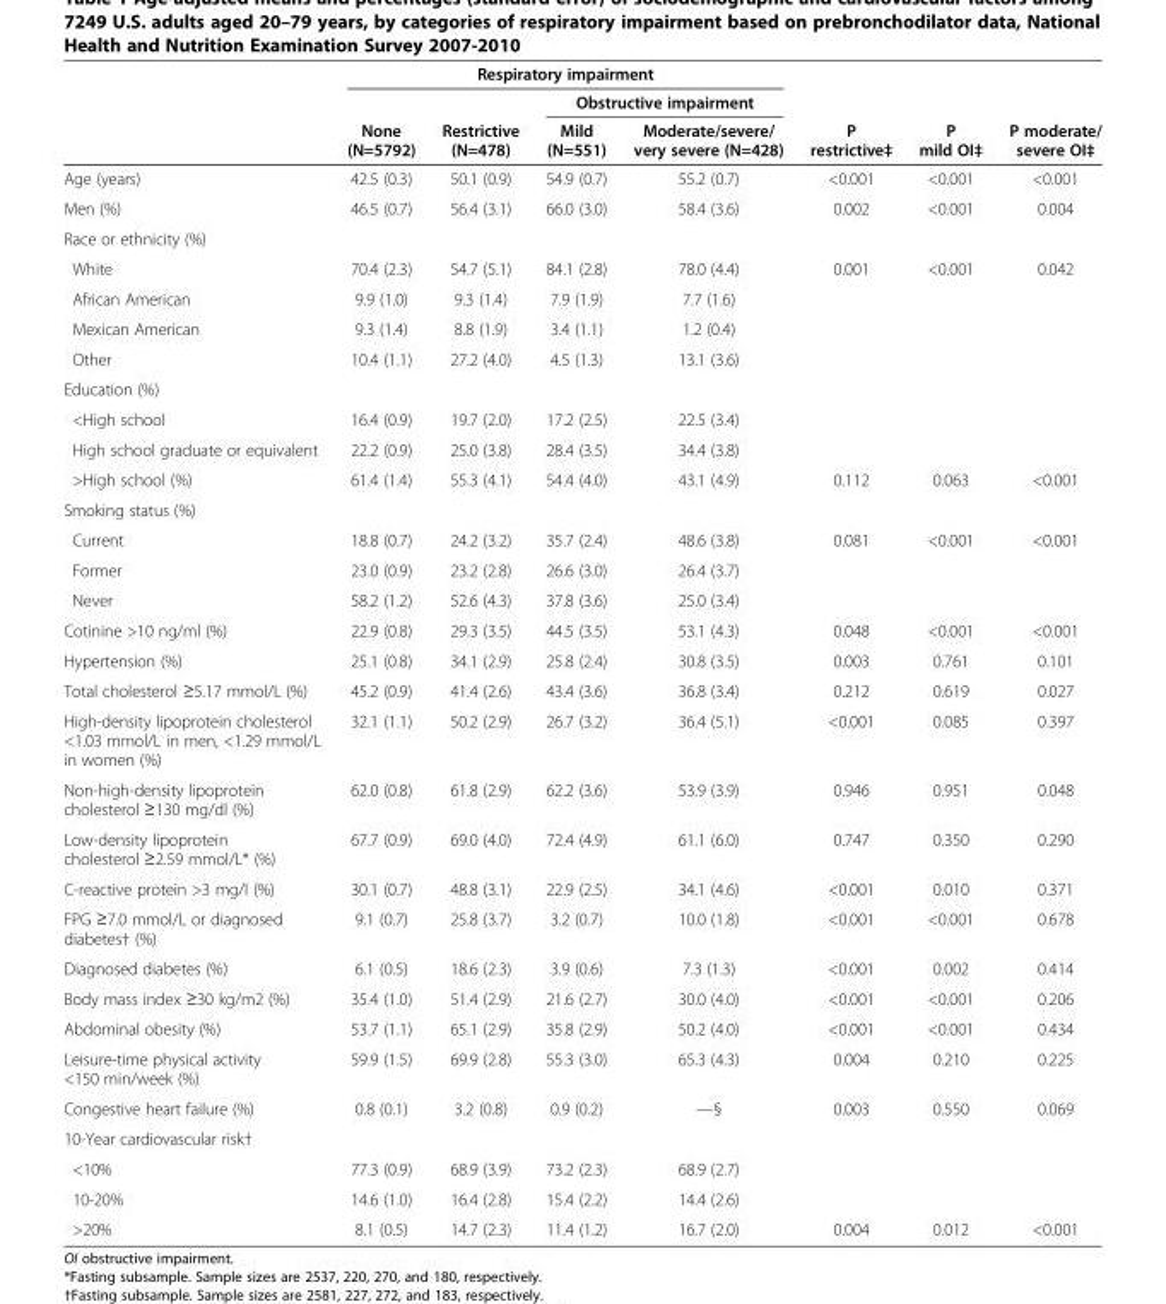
<table><thead><tr><td rowspan="3"></td><td colspan="4">Respiratory impairment</td><td rowspan="3">P restrictive‡</td><td rowspan="3">P mild OI‡</td><td rowspan="3">P moderate/ severe OI‡</td></tr><tr><td rowspan="2">None (N=5792)</td><td rowspan="2">Restrictive (N=478)</td><td colspan="2">Obstructive impairment</td></tr><tr><td>Mild (N=551)</td><td>Moderate/severe/ very severe (N=428)</td></tr></thead><tbody><tr><td>Age (years)</td><td>42.5 (0.3)</td><td>50.1 (0.9)</td><td>54.9 (0.7)</td><td>55.2 (0.7)</td><td>&lt;0.001</td><td>&lt;0.001</td><td>&lt;0.001</td></tr><tr><td>Men (%)</td><td>46.5 (0.7)</td><td>56.4 (3.1)</td><td>66.0 (3.0)</td><td>58.4 (3.6)</td><td>0.002</td><td>&lt;0.001</td><td>0.004</td></tr><tr><td colspan="8">Race or ethnicity (%)</td></tr><tr><td>White</td><td>70.4 (2.3)</td><td>54.7 (5.1)</td><td>84.1 (2.8)</td><td>78.0 (4.4)</td><td>0.001</td><td>&lt;0.001</td><td>0.042</td></tr><tr><td>African American</td><td>9.9 (1.0)</td><td>9.3 (1.4)</td><td>7.9 (1.9)</td><td>7.7 (1.6)</td><td></td><td></td><td></td></tr><tr><td>Mexican American</td><td>9.3 (1.4)</td><td>8.8 (1.9)</td><td>3.4 (1.1)</td><td>1.2 (0.4)</td><td></td><td></td><td></td></tr><tr><td>Other</td><td>10.4 (1.1)</td><td>27.2 (4.0)</td><td>4.5 (1.3)</td><td>13.1 (3.6)</td><td></td><td></td><td></td></tr><tr><td colspan="8">Education (%)</td></tr><tr><td>&lt;High school</td><td>16.4 (0.9)</td><td>19.7 (2.0)</td><td>17.2 (2.5)</td><td>22.5 (3.4)</td><td></td><td></td><td></td></tr><tr><td>High school graduate or equivalent</td><td>22.2 (0.9)</td><td>25.0 (3.8)</td><td>28.4 (3.5)</td><td>34.4 (3.8)</td><td></td><td></td><td></td></tr><tr><td>&gt;High school (%)</td><td>61.4 (1.4)</td><td>55.3 (4.1)</td><td>54.4 (4.0)</td><td>43.1 (4.9)</td><td>0.112</td><td>0.063</td><td>&lt;0.001</td></tr><tr><td colspan="8">Smoking status (%)</td></tr><tr><td>Current</td><td>18.8 (0.7)</td><td>24.2 (3.2)</td><td>35.7 (2.4)</td><td>48.6 (3.8)</td><td>0.081</td><td>&lt;0.001</td><td>&lt;0.001</td></tr><tr><td>Former</td><td>23.0 (0.9)</td><td>23.2 (2.8)</td><td>26.6 (3.0)</td><td>26.4 (3.7)</td><td></td><td></td><td></td></tr><tr><td>Never</td><td>58.2 (1.2)</td><td>52.6 (4.3)</td><td>37.8 (3.6)</td><td>25.0 (3.4)</td><td></td><td></td><td></td></tr><tr><td>Cotinine &gt;10 ng/ml (%)</td><td>22.9 (0.8)</td><td>29.3 (3.5)</td><td>44.5 (3.5)</td><td>53.1 (4.3)</td><td>0.048</td><td>&lt;0.001</td><td>&lt;0.001</td></tr><tr><td>Hypertension (%)</td><td>25.1 (0.8)</td><td>34.1 (2.9)</td><td>25.8 (2.4)</td><td>30.8 (3.5)</td><td>0.003</td><td>0.761</td><td>0.101</td></tr><tr><td>Total cholesterol ≥5.17 mmol/L (%)</td><td>45.2 (0.9)</td><td>41.4 (2.6)</td><td>43.4 (3.6)</td><td>36.8 (3.4)</td><td>0.212</td><td>0.619</td><td>0.027</td></tr><tr><td>High-density lipoprotein cholesterol &lt;1.03 mmol/L in men, &lt;1.29 mmol/L in women (%)</td><td>32.1 (1.1)</td><td>50.2 (2.9)</td><td>26.7 (3.2)</td><td>36.4 (5.1)</td><td>&lt;0.001</td><td>0.085</td><td>0.397</td></tr><tr><td>Non-high-density lipoprotein cholesterol ≥130 mg/dl (%)</td><td>62.0 (0.8)</td><td>61.8 (2.9)</td><td>62.2 (3.6)</td><td>53.9 (3.9)</td><td>0.946</td><td>0.951</td><td>0.048</td></tr><tr><td>Low-density lipoprotein cholesterol ≥2.59 mmol/L* (%)</td><td>67.7 (0.9)</td><td>69.0 (4.0)</td><td>72.4 (4.9)</td><td>61.1 (6.0)</td><td>0.747</td><td>0.350</td><td>0.290</td></tr><tr><td>C-reactive protein &gt;3 mg/l (%)</td><td>30.1 (0.7)</td><td>48.8 (3.1)</td><td>22.9 (2.5)</td><td>34.1 (4.6)</td><td>&lt;0.001</td><td>0.010</td><td>0.371</td></tr><tr><td>FPG ≥7.0 mmol/L or diagnosed diabetes† (%)</td><td>9.1 (0.7)</td><td>25.8 (3.7)</td><td>3.2 (0.7)</td><td>10.0 (1.8)</td><td>&lt;0.001</td><td>&lt;0.001</td><td>0.678</td></tr><tr><td>Diagnosed diabetes (%)</td><td>6.1 (0.5)</td><td>18.6 (2.3)</td><td>3.9 (0.6)</td><td>7.3 (1.3)</td><td>&lt;0.001</td><td>0.002</td><td>0.414</td></tr><tr><td>Body mass index ≥30 kg/m2 (%)</td><td>35.4 (1.0)</td><td>51.4 (2.9)</td><td>21.6 (2.7)</td><td>30.0 (4.0)</td><td>&lt;0.001</td><td>&lt;0.001</td><td>0.206</td></tr><tr><td>Abdominal obesity (%)</td><td>53.7 (1.1)</td><td>65.1 (2.9)</td><td>35.8 (2.9)</td><td>50.2 (4.0)</td><td>&lt;0.001</td><td>&lt;0.001</td><td>0.434</td></tr><tr><td>Leisure-time physical activity &lt;150 min/week (%)</td><td>59.9 (1.5)</td><td>69.9 (2.8)</td><td>55.3 (3.0)</td><td>65.3 (4.3)</td><td>0.004</td><td>0.210</td><td>0.225</td></tr><tr><td>Congestive heart failure (%)</td><td>0.8 (0.1)</td><td>3.2 (0.8)</td><td>0.9 (0.2)</td><td>—§</td><td>0.003</td><td>0.550</td><td>0.069</td></tr><tr><td colspan="8">10-Year cardiovascular risk†</td></tr><tr><td>&lt;10%</td><td>77.3 (0.9)</td><td>68.9 (3.9)</td><td>73.2 (2.3)</td><td>68.9 (2.7)</td><td></td><td></td><td></td></tr><tr><td>10-20%</td><td>14.6 (1.0)</td><td>16.4 (2.8)</td><td>15.4 (2.2)</td><td>14.4 (2.6)</td><td></td><td></td><td></td></tr><tr><td>&gt;20%</td><td>8.1 (0.5)</td><td>14.7 (2.3)</td><td>11.4 (1.2)</td><td>16.7 (2.0)</td><td>0.004</td><td>0.012</td><td>&lt;0.001</td></tr></tbody></table>